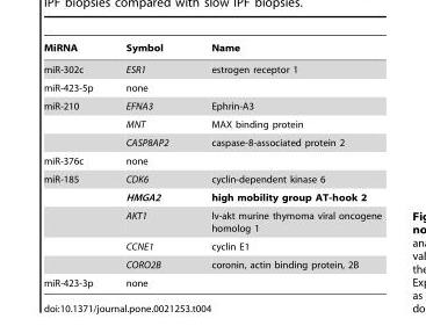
<table><thead><tr><td>MiRNA</td><td>Symbol</td><td>Name</td></tr></thead><tbody><tr><td>miR-302c</td><td>ESR1</td><td>estrogen receptor 1</td></tr><tr><td>miR-423-5p</td><td>none</td><td></td></tr><tr><td rowspan="3">miR-210</td><td>EFNA3</td><td>Ephrin-A3</td></tr><tr><td>MNT</td><td>MAX binding protein</td></tr><tr><td>CASP8AP2</td><td>caspase-8-associated protein 2</td></tr><tr><td>miR-376c</td><td>none</td><td></td></tr><tr><td rowspan="5">miR-185</td><td>CDK6</td><td>cyclin-dependent kinase 6</td></tr><tr><td>HMGA2</td><td>high mobility group AT-hook 2</td></tr><tr><td>AKT1</td><td>lv-akt murine thymoma viral oncogene homolog 1</td></tr><tr><td>CCNE1</td><td>cyclin E1</td></tr><tr><td>CORO2B</td><td>coronin, actin binding protein, 2B</td></tr><tr><td>miR-423-3p</td><td>none</td><td></td></tr></tbody></table>